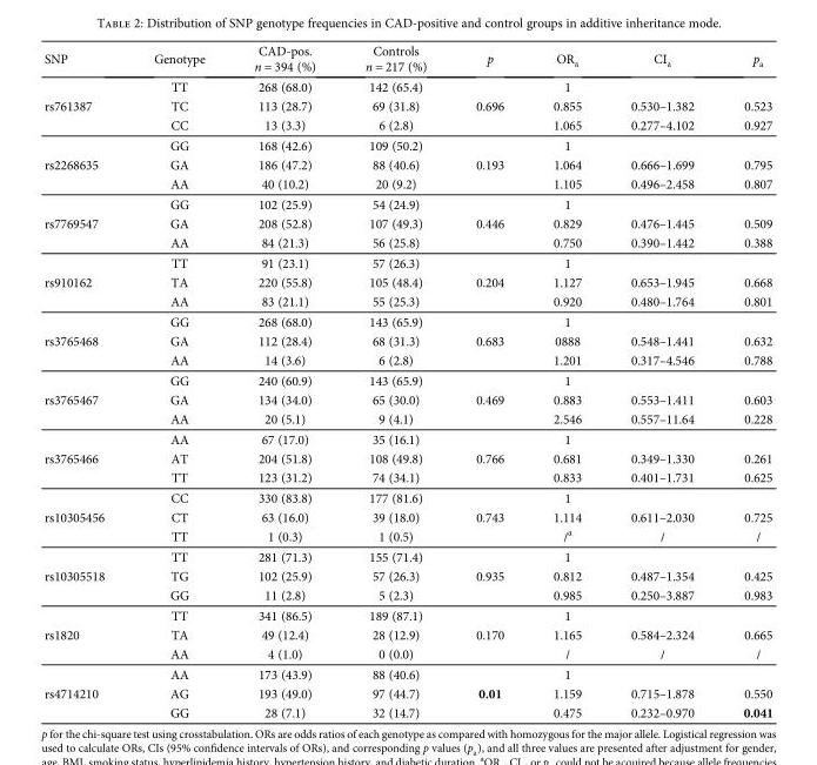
<table><thead><tr><td>SNP</td><td>Genotype</td><td>CAD-pos. n = 394 (%)</td><td>Controls n = 217 (%)</td><td>p</td><td>ORa</td><td>CIa</td><td>pa</td></tr></thead><tbody><tr><td rowspan="3">rs761387</td><td>TT</td><td>268 (68.0)</td><td>142 (65.4)</td><td></td><td>1</td><td></td><td></td></tr><tr><td>TC</td><td>113 (28.7)</td><td>69 (31.8)</td><td>0.696</td><td>0.855</td><td>0.530–1.382</td><td>0.523</td></tr><tr><td>CC</td><td>13 (3.3)</td><td>6 (2.8)</td><td></td><td>1.065</td><td>0.277–4.102</td><td>0.927</td></tr><tr><td rowspan="3">rs2268635</td><td>GG</td><td>168 (42.6)</td><td>109 (50.2)</td><td></td><td>1</td><td></td><td></td></tr><tr><td>GA</td><td>186 (47.2)</td><td>88 (40.6)</td><td>0.193</td><td>1.064</td><td>0.666–1.699</td><td>0.795</td></tr><tr><td>AA</td><td>40 (10.2)</td><td>20 (9.2)</td><td></td><td>1.105</td><td>0.496–2.458</td><td>0.807</td></tr><tr><td rowspan="3">rs7769547</td><td>GG</td><td>102 (25.9)</td><td>54 (24.9)</td><td></td><td>1</td><td></td><td></td></tr><tr><td>GA</td><td>208 (52.8)</td><td>107 (49.3)</td><td>0.446</td><td>0.829</td><td>0.476–1.445</td><td>0.509</td></tr><tr><td>AA</td><td>84 (21.3)</td><td>56 (25.8)</td><td></td><td>0.750</td><td>0.390–1.442</td><td>0.388</td></tr><tr><td rowspan="3">rs910162</td><td>TT</td><td>91 (23.1)</td><td>57 (26.3)</td><td></td><td>1</td><td></td><td></td></tr><tr><td>TA</td><td>220 (55.8)</td><td>105 (48.4)</td><td>0.204</td><td>1.127</td><td>0.653–1.945</td><td>0.668</td></tr><tr><td>AA</td><td>83 (21.1)</td><td>55 (25.3)</td><td></td><td>0.920</td><td>0.480–1.764</td><td>0.801</td></tr><tr><td rowspan="3">rs3765468</td><td>GG</td><td>268 (68.0)</td><td>143 (65.9)</td><td></td><td>1</td><td></td><td></td></tr><tr><td>GA</td><td>112 (28.4)</td><td>68 (31.3)</td><td>0.683</td><td>0888</td><td>0.548–1.441</td><td>0.632</td></tr><tr><td>AA</td><td>14 (3.6)</td><td>6 (2.8)</td><td></td><td>1.201</td><td>0.317–4.546</td><td>0.788</td></tr><tr><td rowspan="3">rs3765467</td><td>GG</td><td>240 (60.9)</td><td>143 (65.9)</td><td></td><td>1</td><td></td><td></td></tr><tr><td>GA</td><td>134 (34.0)</td><td>65 (30.0)</td><td>0.469</td><td>0.883</td><td>0.553–1.411</td><td>0.603</td></tr><tr><td>AA</td><td>20 (5.1)</td><td>9 (4.1)</td><td></td><td>2.546</td><td>0.557–11.64</td><td>0.228</td></tr><tr><td rowspan="3">rs3765466</td><td>AA</td><td>67 (17.0)</td><td>35 (16.1)</td><td></td><td>1</td><td></td><td></td></tr><tr><td>AT</td><td>204 (51.8)</td><td>108 (49.8)</td><td>0.766</td><td>0.681</td><td>0.349–1.330</td><td>0.261</td></tr><tr><td>TT</td><td>123 (31.2)</td><td>74 (34.1)</td><td></td><td>0.833</td><td>0.401–1.731</td><td>0.625</td></tr><tr><td rowspan="3">rs10305456</td><td>CC</td><td>330 (83.8)</td><td>177 (81.6)</td><td></td><td>1</td><td></td><td></td></tr><tr><td>CT</td><td>63 (16.0)</td><td>39 (18.0)</td><td>0.743</td><td>1.114</td><td>0.611–2.030</td><td>0.725</td></tr><tr><td>TT</td><td>1 (0.3)</td><td>1 (0.5)</td><td></td><td>/a</td><td>/</td><td>/</td></tr><tr><td rowspan="3">rs10305518</td><td>TT</td><td>281 (71.3)</td><td>155 (71.4)</td><td></td><td>1</td><td></td><td></td></tr><tr><td>TG</td><td>102 (25.9)</td><td>57 (26.3)</td><td>0.935</td><td>0.812</td><td>0.487–1.354</td><td>0.425</td></tr><tr><td>GG</td><td>11 (2.8)</td><td>5 (2.3)</td><td></td><td>0.985</td><td>0.250–3.887</td><td>0.983</td></tr><tr><td rowspan="3">rs1820</td><td>TT</td><td>341 (86.5)</td><td>189 (87.1)</td><td></td><td>1</td><td></td><td></td></tr><tr><td>TA</td><td>49 (12.4)</td><td>28 (12.9)</td><td>0.170</td><td>1.165</td><td>0.584–2.324</td><td>0.665</td></tr><tr><td>AA</td><td>4 (1.0)</td><td>0 (0.0)</td><td></td><td>/</td><td>/</td><td>/</td></tr><tr><td rowspan="3">rs4714210</td><td>AA</td><td>173 (43.9)</td><td>88 (40.6)</td><td></td><td>1</td><td></td><td></td></tr><tr><td>AG</td><td>193 (49.0)</td><td>97 (44.7)</td><td>0.01</td><td>1.159</td><td>0.715–1.878</td><td>0.550</td></tr><tr><td>GG</td><td>28 (7.1)</td><td>32 (14.7)</td><td></td><td>0.475</td><td>0.232–0.970</td><td>0.041</td></tr></tbody></table>